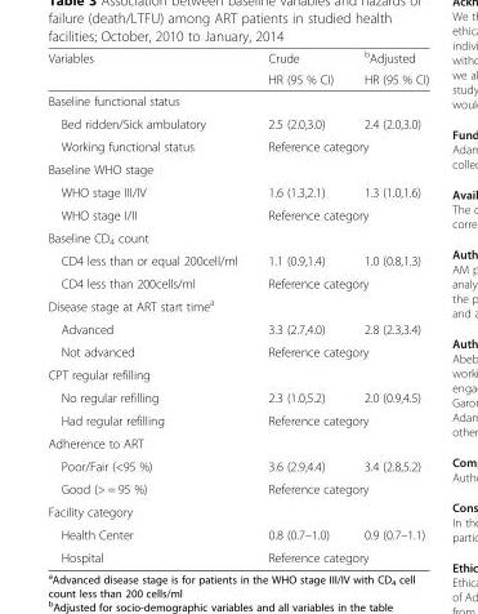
<table><thead><tr><td rowspan="2">Variables</td><td rowspan="2">Crude HR (95 % CI)</td><td rowspan="2"><sup>b</sup>Adjusted HR (95 % CI)</td></tr><tr></tr></thead><tbody><tr><td colspan="3">Baseline functional status</td></tr><tr><td>Bed ridden/Sick ambulatory</td><td>2.5 (2.0,3.0)</td><td>2.4 (2.0,3.0)</td></tr><tr><td>Working functional status</td><td colspan="2">Reference category</td></tr><tr><td colspan="3">Baseline WHO stage</td></tr><tr><td>WHO stage III/IV</td><td>1.6 (1.3,2.1)</td><td>1.3 (1.0,1.6)</td></tr><tr><td>WHO stage I/II</td><td colspan="2">Reference category</td></tr><tr><td colspan="3">Baseline CD<sub>4</sub> count</td></tr><tr><td>CD4 less than or equal 200cell/ml</td><td>1.1 (0.9,1.4)</td><td>1.0 (0.8,1.3)</td></tr><tr><td>CD4 less than 200cells/ml</td><td colspan="2">Reference category</td></tr><tr><td colspan="3">Disease stage at ART start time<sup>a</sup></td></tr><tr><td>Advanced</td><td>3.3 (2.7,4.0)</td><td>2.8 (2.3,3.4)</td></tr><tr><td>Not advanced</td><td colspan="2">Reference category</td></tr><tr><td colspan="3">CPT regular refilling</td></tr><tr><td>No regular refilling</td><td>2.3 (1.0,5.2)</td><td>2.0 (0.9,4.5)</td></tr><tr><td>Had regular refilling</td><td colspan="2">Reference category</td></tr><tr><td colspan="3">Adherence to ART</td></tr><tr><td>Poor/Fair (&lt;95 %)</td><td>3.6 (2.9,4.4)</td><td>3.4 (2.8,5.2)</td></tr><tr><td>Good (&gt; = 95 %)</td><td colspan="2">Reference category</td></tr><tr><td colspan="3">Facility category</td></tr><tr><td>Health Center</td><td>0.8 (0.7–1.0)</td><td>0.9 (0.7–1.1)</td></tr><tr><td>Hospital</td><td colspan="2">Reference category</td></tr></tbody></table>